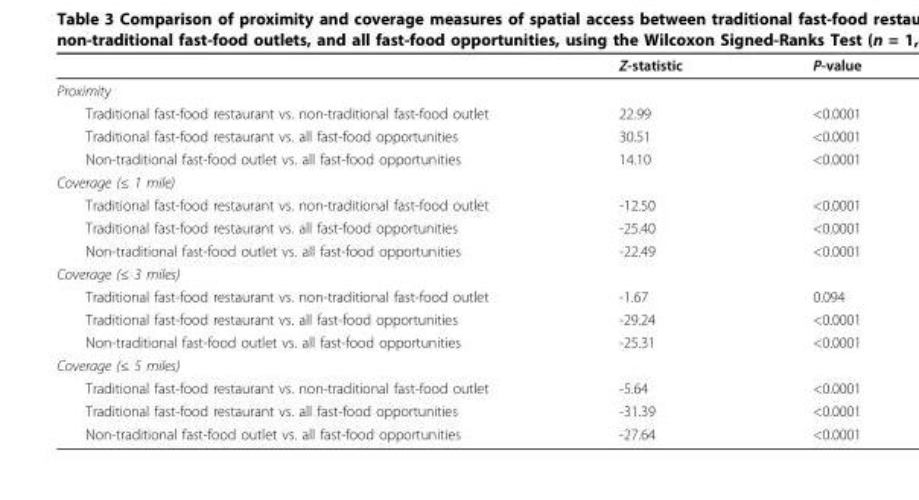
<table><thead><tr><td></td><td>Z-statistic</td><td>P-value</td></tr></thead><tbody><tr><td colspan="3">Proximity</td></tr><tr><td>Traditional fast-food restaurant vs. non-traditional fast-food outlet</td><td>22.99</td><td>&lt;0.0001</td></tr><tr><td>Traditional fast-food restaurant vs. all fast-food opportunities</td><td>30.51</td><td>&lt;0.0001</td></tr><tr><td>Non-traditional fast-food outlet vs. all fast-food opportunities</td><td>14.10</td><td>&lt;0.0001</td></tr><tr><td colspan="3">Coverage (≤ 1 mile)</td></tr><tr><td>Traditional fast-food restaurant vs. non-traditional fast-food outlet</td><td>-12.50</td><td>&lt;0.0001</td></tr><tr><td>Traditional fast-food restaurant vs. all fast-food opportunities</td><td>-25.40</td><td>&lt;0.0001</td></tr><tr><td>Non-traditional fast-food outlet vs. all fast-food opportunities</td><td>-22.49</td><td>&lt;0.0001</td></tr><tr><td colspan="3">Coverage (≤ 3 miles)</td></tr><tr><td>Traditional fast-food restaurant vs. non-traditional fast-food outlet</td><td>-1.67</td><td>0.094</td></tr><tr><td>Traditional fast-food restaurant vs. all fast-food opportunities</td><td>-29.24</td><td>&lt;0.0001</td></tr><tr><td>Non-traditional fast-food outlet vs. all fast-food opportunities</td><td>-25.31</td><td>&lt;0.0001</td></tr><tr><td colspan="3">Coverage (≤ 5 miles)</td></tr><tr><td>Traditional fast-food restaurant vs. non-traditional fast-food outlet</td><td>-5.64</td><td>&lt;0.0001</td></tr><tr><td>Traditional fast-food restaurant vs. all fast-food opportunities</td><td>-31.39</td><td>&lt;0.0001</td></tr><tr><td>Non-traditional fast-food outlet vs. all fast-food opportunities</td><td>-27.64</td><td>&lt;0.0001</td></tr></tbody></table>